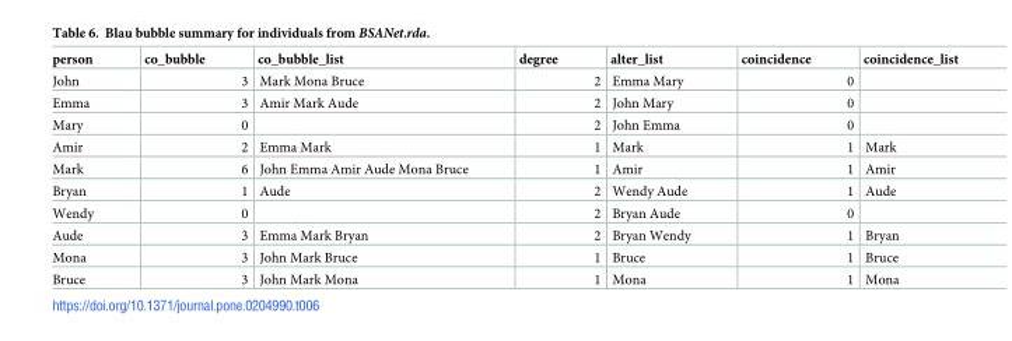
<table><thead><tr><td>person</td><td>co_bubble</td><td>co_bubble_list</td><td>degree</td><td>alter_list</td><td>coincidence</td><td>coincidence_list</td></tr></thead><tbody><tr><td>John</td><td>3</td><td>Mark Mona Bruce</td><td>2</td><td>Emma Mary</td><td>0</td><td></td></tr><tr><td>Emma</td><td>3</td><td>Amir Mark Aude</td><td>2</td><td>John Mary</td><td>0</td><td></td></tr><tr><td>Mary</td><td>0</td><td></td><td>2</td><td>John Emma</td><td>0</td><td></td></tr><tr><td>Amir</td><td>2</td><td>Emma Mark</td><td>1</td><td>Mark</td><td>1</td><td>Mark</td></tr><tr><td>Mark</td><td>6</td><td>John Emma Amir Aude Mona Bruce</td><td>1</td><td>Amir</td><td>1</td><td>Amir</td></tr><tr><td>Bryan</td><td>1</td><td>Aude</td><td>2</td><td>Wendy Aude</td><td>1</td><td>Aude</td></tr><tr><td>Wendy</td><td>0</td><td></td><td>2</td><td>Bryan Aude</td><td>0</td><td></td></tr><tr><td>Aude</td><td>3</td><td>Emma Mark Bryan</td><td>2</td><td>Bryan Wendy</td><td>1</td><td>Bryan</td></tr><tr><td>Mona</td><td>3</td><td>John Mark Bruce</td><td>1</td><td>Bruce</td><td>1</td><td>Bruce</td></tr><tr><td>Bruce</td><td>3</td><td>John Mark Mona</td><td>1</td><td>Mona</td><td>1</td><td>Mona</td></tr></tbody></table>